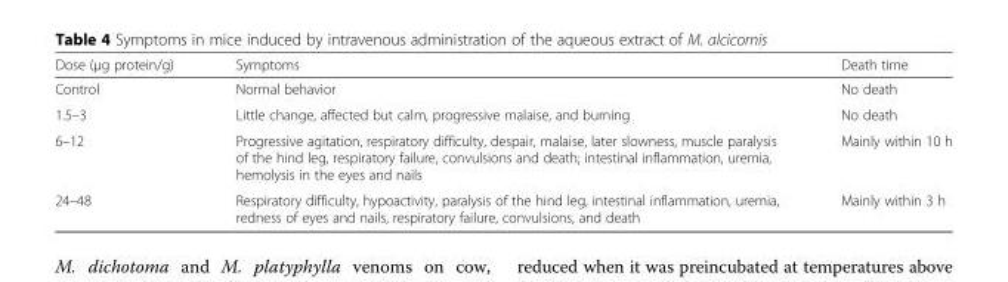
<table><thead><tr><td>Dose (μg protein/g)</td><td>Symptoms</td><td>Death time</td></tr></thead><tbody><tr><td>Control</td><td>Normal behavior</td><td>No death</td></tr><tr><td>1.5–3</td><td>Little change, affected but calm, progressive malaise, and burning</td><td>No death</td></tr><tr><td>6–12</td><td>Progressive agitation, respiratory difficulty, despair, malaise, later slowness, muscle paralysis of the hind leg, respiratory failure, convulsions and death; intestinal inflammation, uremia, hemolysis in the eyes and nails</td><td>Mainly within 10 h</td></tr><tr><td>24–48</td><td>Respiratory difficulty, hypoactivity, paralysis of the hind leg, intestinal inflammation, uremia, redness of eyes and nails, respiratory failure, convulsions, and death</td><td>Mainly within 3 h</td></tr></tbody></table>